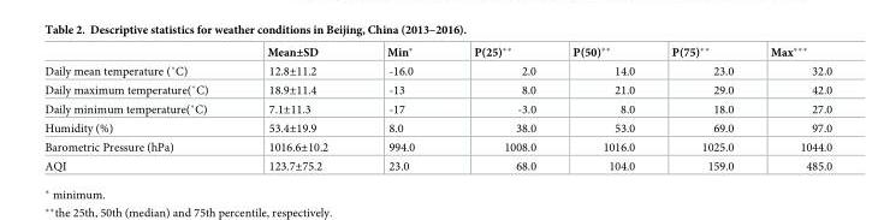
<table><thead><tr><td></td><td>Mean±SD</td><td>Min*</td><td>P(25)**</td><td>P(50)**</td><td>P(75)**</td><td>Max***</td></tr></thead><tbody><tr><td>Daily mean temperature (˚C)</td><td>12.8±11.2</td><td>-16.0</td><td>2.0</td><td>14.0</td><td>23.0</td><td>32.0</td></tr><tr><td>Daily maximum temperature(˚C)</td><td>18.9±11.4</td><td>-13</td><td>8.0</td><td>21.0</td><td>29.0</td><td>42.0</td></tr><tr><td>Daily minimum temperature(˚C)</td><td>7.1±11.3</td><td>-17</td><td>-3.0</td><td>8.0</td><td>18.0</td><td>27.0</td></tr><tr><td>Humidity (%)</td><td>53.4±19.9</td><td>8.0</td><td>38.0</td><td>53.0</td><td>69.0</td><td>97.0</td></tr><tr><td>Barometric Pressure (hPa)</td><td>1016.6±10.2</td><td>994.0</td><td>1008.0</td><td>1016.0</td><td>1025.0</td><td>1044.0</td></tr><tr><td>AQI</td><td>123.7±75.2</td><td>23.0</td><td>68.0</td><td>104.0</td><td>159.0</td><td>485.0</td></tr></tbody></table>